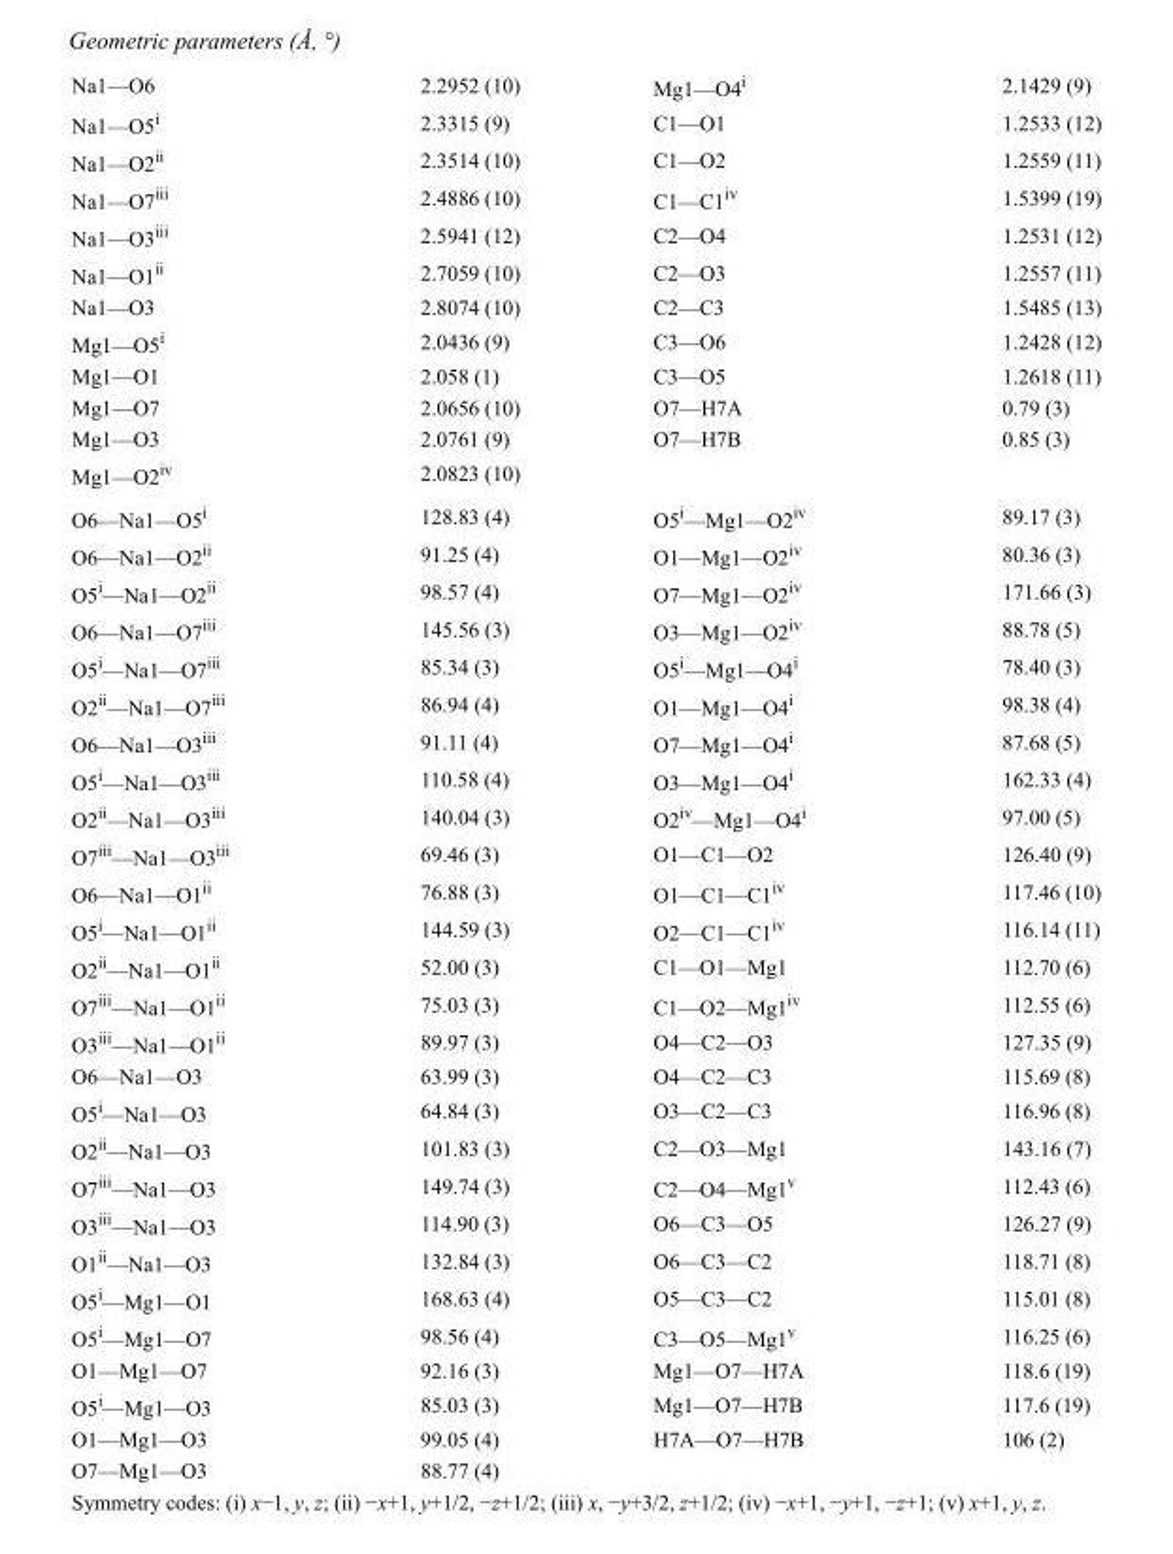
<table><tbody><tr><td>Na1—O6</td><td>2.2952 (10)</td><td>Mg1—O4<sup>i</sup></td><td>2.1429 (9)</td></tr><tr><td>Na1—O5<sup>i</sup></td><td>2.3315 (9)</td><td>C1—O1</td><td>1.2533 (12)</td></tr><tr><td>Na1—O2<sup>ii</sup></td><td>2.3514 (10)</td><td>C1—O2</td><td>1.2559 (11)</td></tr><tr><td>Na1—O7<sup>iii</sup></td><td>2.4886 (10)</td><td>C1—C1<sup>iv</sup></td><td>1.5399 (19)</td></tr><tr><td>Na1—O3<sup>iii</sup></td><td>2.5941 (12)</td><td>C2—O4</td><td>1.2531 (12)</td></tr><tr><td>Na1—O1<sup>ii</sup></td><td>2.7059 (10)</td><td>C2—O3</td><td>1.2557 (11)</td></tr><tr><td>Na1—O3</td><td>2.8074 (10)</td><td>C2—C3</td><td>1.5485 (13)</td></tr><tr><td>Mg1—O5<sup>i</sup></td><td>2.0436 (9)</td><td>C3—O6</td><td>1.2428 (12)</td></tr><tr><td>Mg1—O1</td><td>2.058 (1)</td><td>C3—O5</td><td>1.2618 (11)</td></tr><tr><td>Mg1—O7</td><td>2.0656 (10)</td><td>O7—H7A</td><td>0.79 (3)</td></tr><tr><td>Mg1—O3</td><td>2.0761 (9)</td><td>O7—H7B</td><td>0.85 (3)</td></tr><tr><td>Mg1—O2<sup>iv</sup></td><td>2.0823 (10)</td><td></td><td></td></tr><tr><td>O6—Na1—O5<sup>i</sup></td><td>128.83 (4)</td><td>O5<sup>i</sup>—Mg1—O2<sup>iv</sup></td><td>89.17 (3)</td></tr><tr><td>O6—Na1—O2<sup>ii</sup></td><td>91.25 (4)</td><td>O1—Mg1—O2<sup>iv</sup></td><td>80.36 (3)</td></tr><tr><td>O5<sup>i</sup>—Na1—O2<sup>ii</sup></td><td>98.57 (4)</td><td>O7—Mg1—O2<sup>iv</sup></td><td>171.66 (3)</td></tr><tr><td>O6—Na1—O7<sup>iii</sup></td><td>145.56 (3)</td><td>O3—Mg1—O2<sup>iv</sup></td><td>88.78 (5)</td></tr><tr><td>O5<sup>i</sup>—Na1—O7<sup>iii</sup></td><td>85.34 (3)</td><td>O5<sup>i</sup>—Mg1—O4<sup>i</sup></td><td>78.40 (3)</td></tr><tr><td>O2<sup>ii</sup>—Na1—O7<sup>iii</sup></td><td>86.94 (4)</td><td>O1—Mg1—O4<sup>i</sup></td><td>98.38 (4)</td></tr><tr><td>O6—Na1—O3<sup>iii</sup></td><td>91.11 (4)</td><td>O7—Mg1—O4<sup>i</sup></td><td>87.68 (5)</td></tr><tr><td>O5<sup>i</sup>—Na1—O3<sup>iii</sup></td><td>110.58 (4)</td><td>O3—Mg1—O4<sup>i</sup></td><td>162.33 (4)</td></tr><tr><td>O2<sup>ii</sup>—Na1—O3<sup>iii</sup></td><td>140.04 (3)</td><td>O2<sup>iv</sup>—Mg1—O4<sup>i</sup></td><td>97.00 (5)</td></tr><tr><td>O7<sup>iii</sup>—Na1—O3<sup>iii</sup></td><td>69.46 (3)</td><td>O1—C1—O2</td><td>126.40 (9)</td></tr><tr><td>O6—Na1—O1<sup>ii</sup></td><td>76.88 (3)</td><td>O1—C1—C1<sup>iv</sup></td><td>117.46 (10)</td></tr><tr><td>O5<sup>i</sup>—Na1—O1<sup>ii</sup></td><td>144.59 (3)</td><td>O2—C1—C1<sup>iv</sup></td><td>116.14 (11)</td></tr><tr><td>O2<sup>ii</sup>—Na1—O1<sup>ii</sup></td><td>52.00 (3)</td><td>C1—O1—Mg1</td><td>112.70 (6)</td></tr><tr><td>O7<sup>iii</sup>—Na1—O1<sup>ii</sup></td><td>75.03 (3)</td><td>C1—O2—Mg1<sup>iv</sup></td><td>112.55 (6)</td></tr><tr><td>O3<sup>iii</sup>—Na1—O1<sup>ii</sup></td><td>89.97 (3)</td><td>O4—C2—O3</td><td>127.35 (9)</td></tr><tr><td>O6—Na1—O3</td><td>63.99 (3)</td><td>O4—C2—C3</td><td>115.69 (8)</td></tr><tr><td>O5<sup>i</sup>—Na1—O3</td><td>64.84 (3)</td><td>O3—C2—C3</td><td>116.96 (8)</td></tr><tr><td>O2<sup>ii</sup>—Na1—O3</td><td>101.83 (3)</td><td>C2—O3—Mg1</td><td>143.16 (7)</td></tr><tr><td>O7<sup>iii</sup>—Na1—O3</td><td>149.74 (3)</td><td>C2—O4—Mg1<sup>v</sup></td><td>112.43 (6)</td></tr><tr><td>O3<sup>iii</sup>—Na1—O3</td><td>114.90 (3)</td><td>O6—C3—O5</td><td>126.27 (9)</td></tr><tr><td>O1<sup>ii</sup>—Na1—O3</td><td>132.84 (3)</td><td>O6—C3—C2</td><td>118.71 (8)</td></tr><tr><td>O5<sup>i</sup>—Mg1—O1</td><td>168.63 (4)</td><td>O5—C3—C2</td><td>115.01 (8)</td></tr><tr><td>O5<sup>i</sup>—Mg1—O7</td><td>98.56 (4)</td><td>C3—O5—Mg1<sup>v</sup></td><td>116.25 (6)</td></tr><tr><td>O1—Mg1—O7</td><td>92.16 (3)</td><td>Mg1—O7—H7A</td><td>118.6 (19)</td></tr><tr><td>O5<sup>i</sup>—Mg1—O3</td><td>85.03 (3)</td><td>Mg1—O7—H7B</td><td>117.6 (19)</td></tr><tr><td>O1—Mg1—O3</td><td>99.05 (4)</td><td>H7A—O7—H7B</td><td>106 (2)</td></tr><tr><td>O7—Mg1—O3</td><td>88.77 (4)</td><td></td><td></td></tr></tbody></table>